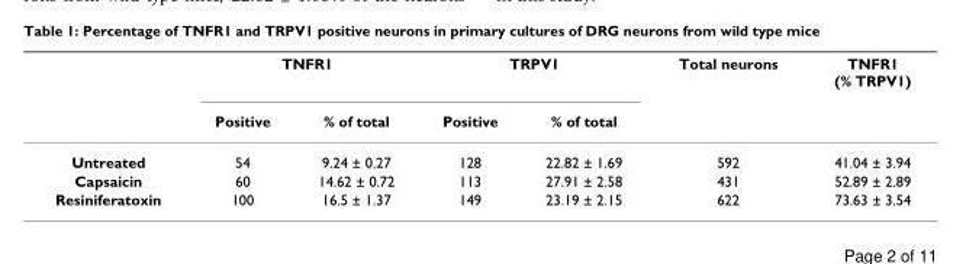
<table><thead><tr><td rowspan="2"></td><td colspan="2">TNFR1</td><td colspan="2">TRPV1</td><td rowspan="2">Total neurons</td><td rowspan="2">TNFR1 (% TRPV1)</td></tr><tr><td>Positive</td><td>% of total</td><td>Positive</td><td>% of total</td></tr></thead><tbody><tr><td>Untreated</td><td>54</td><td>9.24 ± 0.27</td><td>128</td><td>22.82 ± 1.69</td><td>592</td><td>41.04 ± 3.94</td></tr><tr><td>Capsaicin</td><td>60</td><td>14.62 ± 0.72</td><td>113</td><td>27.91 ± 2.58</td><td>431</td><td>52.89 ± 2.89</td></tr><tr><td>Resiniferatoxin</td><td>100</td><td>16.5 ± 1.37</td><td>149</td><td>23.19 ± 2.15</td><td>622</td><td>73.63 ± 3.54</td></tr></tbody></table>